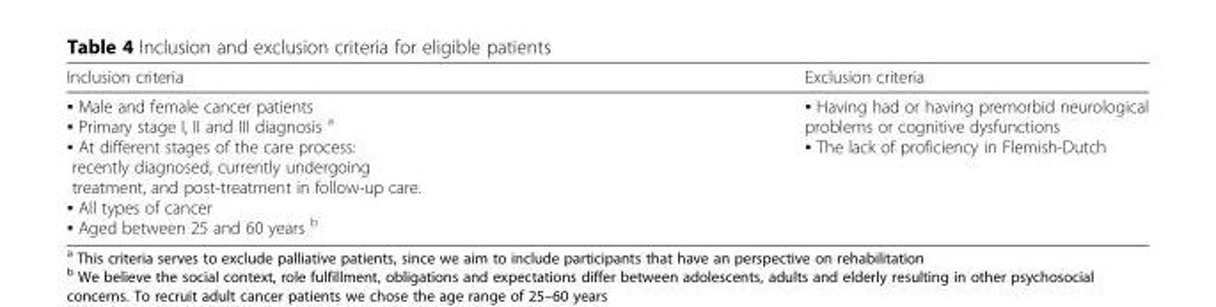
<table><thead><tr><td>Inclusion criteria</td><td>Exclusion criteria</td></tr></thead><tbody><tr><td>▪ Male and female cancer patients ▪ Primary stage I, II and III diagnosis <sup>a</sup> ▪ At different stages of the care process: recently diagnosed, currently undergoing treatment, and post-treatment in follow-up care. ▪ All types of cancer ▪ Aged between 25 and 60 years <sup>b</sup></td><td>▪ Having had or having premorbid neurological problems or cognitive dysfunctions ▪ The lack of proficiency in Flemish-Dutch</td></tr></tbody></table>